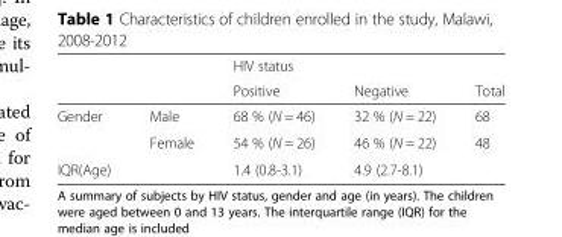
<table><thead><tr><td rowspan="2"></td><td rowspan="2"></td><td colspan="2">HIV status</td><td rowspan="2">Total</td></tr><tr><td>Positive</td><td>Negative</td></tr></thead><tbody><tr><td rowspan="2">Gender</td><td>Male</td><td>68 % (N = 46)</td><td>32 % (N = 22)</td><td>68</td></tr><tr><td>Female</td><td>54 % (N = 26)</td><td>46 % (N = 22)</td><td>48</td></tr><tr><td>IQR(Age)</td><td></td><td>1.4 (0.8-3.1)</td><td>4.9 (2.7-8.1)</td><td></td></tr></tbody></table>